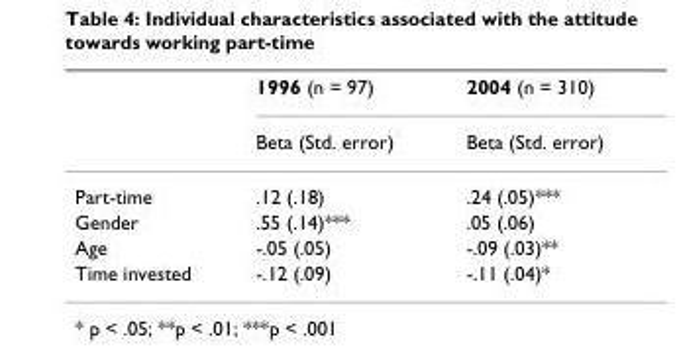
<table><thead><tr><td rowspan="2"></td><td rowspan="2">1996 (n = 97) Beta (Std. error)</td><td rowspan="2">2004 (n = 310) Beta (Std. error)</td></tr><tr></tr></thead><tbody><tr><td>Part-time</td><td>.12 (.18)</td><td>.24 (.05)***</td></tr><tr><td>Gender</td><td>.55 (.14)***</td><td>.05 (.06)</td></tr><tr><td>Age</td><td>-.05 (.05)</td><td>-.09 (.03)**</td></tr><tr><td>Time invested</td><td>-.12 (.09)</td><td>-.11 (.04)*</td></tr></tbody></table>